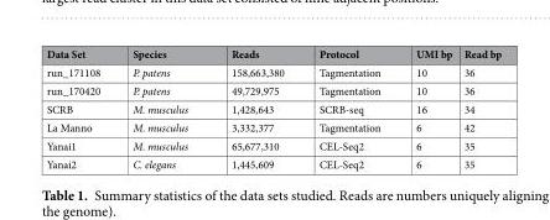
<table><thead><tr><td>Data Set</td><td>Species</td><td>Reads</td><td>Protocol</td><td>UMI bp</td><td>Read bp</td></tr></thead><tbody><tr><td>run_171108</td><td>P. patens</td><td>158,663,380</td><td>Tagmentation</td><td>10</td><td>36</td></tr><tr><td>run_170420</td><td>P. patens</td><td>49,729,975</td><td>Tagmentation</td><td>10</td><td>36</td></tr><tr><td>SCRB</td><td>M. musculus</td><td>1,428,643</td><td>SCRB-seq</td><td>16</td><td>34</td></tr><tr><td>La Manno</td><td>M. musculus</td><td>3,332,377</td><td>Tagmentation</td><td>6</td><td>42</td></tr><tr><td>Yanai1</td><td>M. musculus</td><td>65,677,310</td><td>CEL-Seq2</td><td>6</td><td>35</td></tr><tr><td>Yanai2</td><td>C. elegans</td><td>1,445,609</td><td>CEL-Seq2</td><td>6</td><td>35</td></tr></tbody></table>